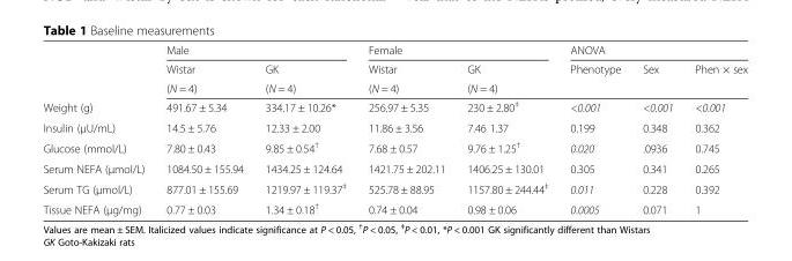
<table><thead><tr><td rowspan="3"></td><td colspan="2">Male</td><td colspan="2">Female</td><td colspan="3">ANOVA</td></tr><tr><td rowspan="2">Wistar (N = 4)</td><td rowspan="2">GK (N = 4)</td><td rowspan="2">Wistar (N = 4)</td><td rowspan="2">GK (N = 4)</td><td rowspan="2">Phenotype</td><td rowspan="2">Sex</td><td rowspan="2">Phen × sex</td></tr><tr></tr></thead><tbody><tr><td>Weight (g)</td><td>491.67 ± 5.34</td><td>334.17 ± 10.26*</td><td>256.97 ± 5.35</td><td>230 ± 2.80<sup>‡</sup></td><td>&lt;0.001</td><td>&lt;0.001</td><td>&lt;0.001</td></tr><tr><td>Insulin (μU/mL)</td><td>14.5 ± 5.76</td><td>12.33 ± 2.00</td><td>11.86 ± 3.56</td><td>7.46 1.37</td><td>0.199</td><td>0.348</td><td>0.362</td></tr><tr><td>Glucose (mmol/L)</td><td>7.80 ± 0.43</td><td>9.85 ± 0.54<sup>†</sup></td><td>7.68 ± 0.57</td><td>9.76 ± 1.25<sup>†</sup></td><td>0.020</td><td>.0936</td><td>0.745</td></tr><tr><td>Serum NEFA (μmol/L)</td><td>1084.50 ± 155.94</td><td>1434.25 ± 124.64</td><td>1421.75 ± 202.11</td><td>1406.25 ± 130.01</td><td>0.305</td><td>0.341</td><td>0.265</td></tr><tr><td>Serum TG (μmol/L)</td><td>877.01 ± 155.69</td><td>1219.97 ± 119.37<sup>‡</sup></td><td>525.78 ± 88.95</td><td>1157.80 ± 244.44<sup>‡</sup></td><td>0.011</td><td>0.228</td><td>0.392</td></tr><tr><td>Tissue NEFA (μg/mg)</td><td>0.77 ± 0.03</td><td>1.34 ± 0.18<sup>†</sup></td><td>0.74 ± 0.04</td><td>0.98 ± 0.06</td><td>0.0005</td><td>0.071</td><td>1</td></tr></tbody></table>